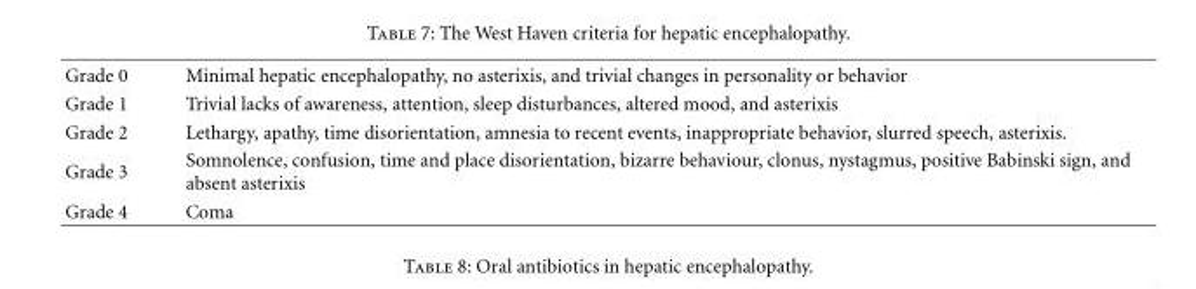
<table><tbody><tr><td>Grade 0</td><td>Minimal hepatic encephalopathy, no asterixis, and trivial changes in personality or behavior</td></tr><tr><td>Grade 1</td><td>Trivial lacks of awareness, attention, sleep disturbances, altered mood, and asterixis</td></tr><tr><td>Grade 2</td><td>Lethargy, apathy, time disorientation, amnesia to recent events, inappropriate behavior, slurred speech, asterixis.</td></tr><tr><td>Grade 3</td><td>Somnolence, confusion, time and place disorientation, bizarre behaviour, clonus, nystagmus, positive Babinski sign, and absent asterixis</td></tr><tr><td>Grade 4</td><td>Coma</td></tr></tbody></table>